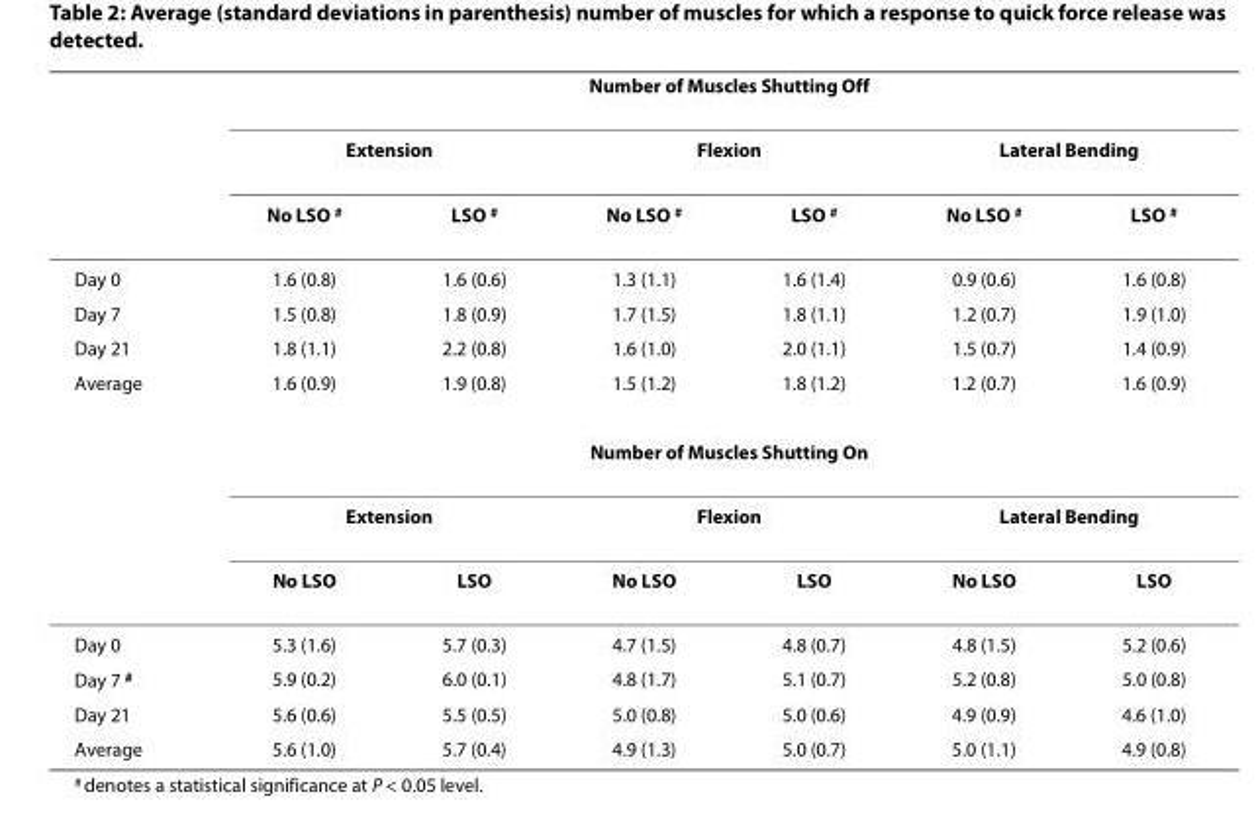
<table><thead><tr><td rowspan="3"></td><td colspan="6">Number of Muscles Shutting Off</td></tr><tr><td colspan="2">Extension</td><td colspan="2">Flexion</td><td colspan="2">Lateral Bending</td></tr><tr><td>No LSO <sup>#</sup></td><td>LSO <sup>#</sup></td><td>No LSO <sup>#</sup></td><td>LSO <sup>#</sup></td><td>No LSO <sup>#</sup></td><td>LSO <sup>#</sup></td></tr></thead><tbody><tr><td>Day 0</td><td>1.6 (0.8)</td><td>1.6 (0.6)</td><td>1.3 (1.1)</td><td>1.6 (1.4)</td><td>0.9 (0.6)</td><td>1.6 (0.8)</td></tr><tr><td>Day 7</td><td>1.5 (0.8)</td><td>1.8 (0.9)</td><td>1.7 (1.5)</td><td>1.8 (1.1)</td><td>1.2 (0.7)</td><td>1.9 (1.0)</td></tr><tr><td>Day 21</td><td>1.8 (1.1)</td><td>2.2 (0.8)</td><td>1.6 (1.0)</td><td>2.0 (1.1)</td><td>1.5 (0.7)</td><td>1.4 (0.9)</td></tr><tr><td rowspan="4">Average</td><td>1.6 (0.9)</td><td>1.9 (0.8)</td><td>1.5 (1.2)</td><td>1.8 (1.2)</td><td>1.2 (0.7)</td><td>1.6 (0.9)</td></tr><tr><td colspan="6">Number of Muscles Shutting On</td></tr><tr><td colspan="2">Extension</td><td colspan="2">Flexion</td><td colspan="2">Lateral Bending</td></tr><tr><td>No LSO</td><td>LSO</td><td>No LSO</td><td>LSO</td><td>No LSO</td><td>LSO</td></tr><tr><td>Day 0</td><td>5.3 (1.6)</td><td>5.7 (0.3)</td><td>4.7 (1.5)</td><td>4.8 (0.7)</td><td>4.8 (1.5)</td><td>5.2 (0.6)</td></tr><tr><td>Day 7 <sup>#</sup></td><td>5.9 (0.2)</td><td>6.0 (0.1)</td><td>4.8 (1.7)</td><td>5.1 (0.7)</td><td>5.2 (0.8)</td><td>5.0 (0.8)</td></tr><tr><td>Day 21</td><td>5.6 (0.6)</td><td>5.5 (0.5)</td><td>5.0 (0.8)</td><td>5.0 (0.6)</td><td>4.9 (0.9)</td><td>4.6 (1.0)</td></tr><tr><td>Average</td><td>5.6 (1.0)</td><td>5.7 (0.4)</td><td>4.9 (1.3)</td><td>5.0 (0.7)</td><td>5.0 (1.1)</td><td>4.9 (0.8)</td></tr></tbody></table>